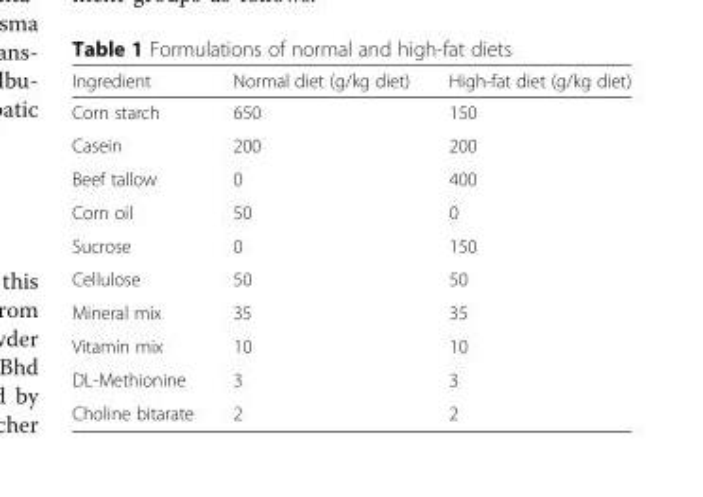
<table><thead><tr><td>Ingredient</td><td>Normal diet (g/kg diet)</td><td>High-fat diet (g/kg diet)</td></tr></thead><tbody><tr><td>Corn starch</td><td>650</td><td>150</td></tr><tr><td>Casein</td><td>200</td><td>200</td></tr><tr><td>Beef tallow</td><td>0</td><td>400</td></tr><tr><td>Corn oil</td><td>50</td><td>0</td></tr><tr><td>Sucrose</td><td>0</td><td>150</td></tr><tr><td>Cellulose</td><td>50</td><td>50</td></tr><tr><td>Mineral mix</td><td>35</td><td>35</td></tr><tr><td>Vitamin mix</td><td>10</td><td>10</td></tr><tr><td>DL-Methionine</td><td>3</td><td>3</td></tr><tr><td>Choline bitarate</td><td>2</td><td>2</td></tr></tbody></table>